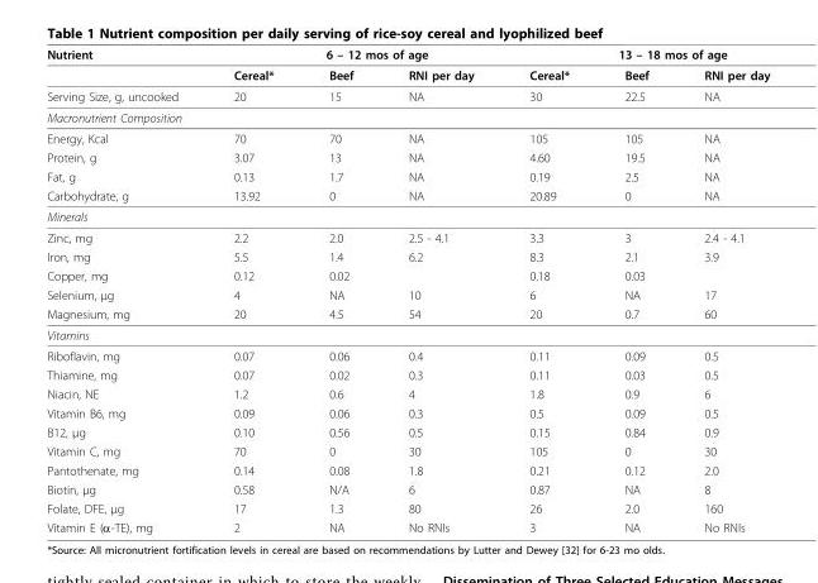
<table><thead><tr><td rowspan="2">Nutrient</td><td colspan="3">6 – 12 mos of age</td><td colspan="3">13 – 18 mos of age</td></tr><tr><td>Cereal*</td><td>Beef</td><td>RNI per day</td><td>Cereal*</td><td>Beef</td><td>RNI per day</td></tr></thead><tbody><tr><td>Serving Size, g, uncooked</td><td>20</td><td>15</td><td>NA</td><td>30</td><td>22.5</td><td>NA</td></tr><tr><td colspan="7">Macronutrient Composition</td></tr><tr><td>Energy, Kcal</td><td>70</td><td>70</td><td>NA</td><td>105</td><td>105</td><td>NA</td></tr><tr><td>Protein, g</td><td>3.07</td><td>13</td><td>NA</td><td>4.60</td><td>19.5</td><td>NA</td></tr><tr><td>Fat, g</td><td>0.13</td><td>1.7</td><td>NA</td><td>0.19</td><td>2.5</td><td>NA</td></tr><tr><td>Carbohydrate, g</td><td>13.92</td><td>0</td><td>NA</td><td>20.89</td><td>0</td><td>NA</td></tr><tr><td colspan="7">Minerals</td></tr><tr><td>Zinc, mg</td><td>2.2</td><td>2.0</td><td>2.5 - 4.1</td><td>3.3</td><td>3</td><td>2.4 - 4.1</td></tr><tr><td>Iron, mg</td><td>5.5</td><td>1.4</td><td>6.2</td><td>8.3</td><td>2.1</td><td>3.9</td></tr><tr><td>Copper, mg</td><td>0.12</td><td>0.02</td><td></td><td>0.18</td><td>0.03</td><td></td></tr><tr><td>Selenium, μg</td><td>4</td><td>NA</td><td>10</td><td>6</td><td>NA</td><td>17</td></tr><tr><td>Magnesium, mg</td><td>20</td><td>4.5</td><td>54</td><td>20</td><td>0.7</td><td>60</td></tr><tr><td colspan="7">Vitamins</td></tr><tr><td>Riboflavin, mg</td><td>0.07</td><td>0.06</td><td>0.4</td><td>0.11</td><td>0.09</td><td>0.5</td></tr><tr><td>Thiamine, mg</td><td>0.07</td><td>0.02</td><td>0.3</td><td>0.11</td><td>0.03</td><td>0.5</td></tr><tr><td>Niacin, NE</td><td>1.2</td><td>0.6</td><td>4</td><td>1.8</td><td>0.9</td><td>6</td></tr><tr><td>Vitamin B6, mg</td><td>0.09</td><td>0.06</td><td>0.3</td><td>0.5</td><td>0.09</td><td>0.5</td></tr><tr><td>B12, μg</td><td>0.10</td><td>0.56</td><td>0.5</td><td>0.15</td><td>0.84</td><td>0.9</td></tr><tr><td>Vitamin C, mg</td><td>70</td><td>0</td><td>30</td><td>105</td><td>0</td><td>30</td></tr><tr><td>Pantothenate, mg</td><td>0.14</td><td>0.08</td><td>1.8</td><td>0.21</td><td>0.12</td><td>2.0</td></tr><tr><td>Biotin, μg</td><td>0.58</td><td>N/A</td><td>6</td><td>0.87</td><td>NA</td><td>8</td></tr><tr><td>Folate, DFE, μg</td><td>17</td><td>1.3</td><td>80</td><td>26</td><td>2.0</td><td>160</td></tr><tr><td>Vitamin E (α-TE), mg</td><td>2</td><td>NA</td><td>No RNIs</td><td>3</td><td>NA</td><td>No RNIs</td></tr></tbody></table>